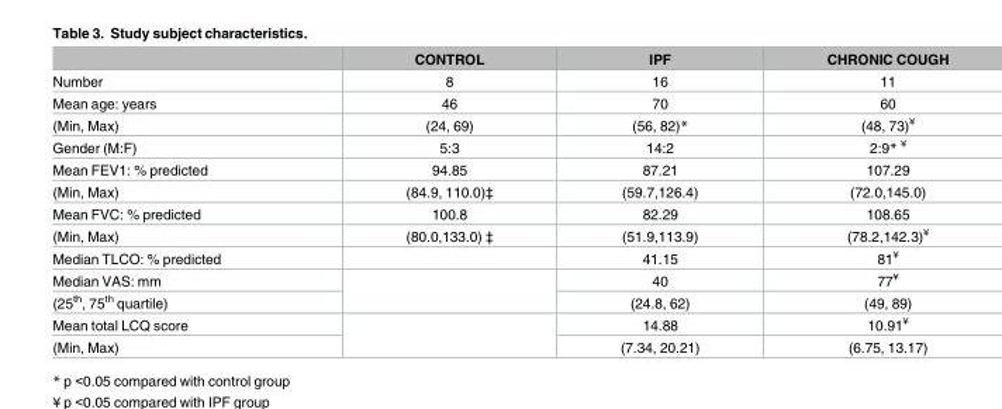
<table><thead><tr><td></td><td>CONTROL</td><td>IPF</td><td>CHRONIC COUGH</td></tr></thead><tbody><tr><td>Number</td><td>8</td><td>16</td><td>11</td></tr><tr><td>Mean age: years</td><td>46</td><td>70</td><td>60</td></tr><tr><td>(Min, Max)</td><td>(24, 69)</td><td>(56, 82)*</td><td>(48, 73)<sup>¥</sup></td></tr><tr><td>Gender (M:F)</td><td>5:3</td><td>14:2</td><td>2:9* <sup>¥</sup></td></tr><tr><td>Mean FEV1: % predicted</td><td>94.85</td><td>87.21</td><td>107.29</td></tr><tr><td>(Min, Max)</td><td>(84.9, 110.0)‡</td><td>(59.7,126.4)</td><td>(72.0,145.0)</td></tr><tr><td>Mean FVC: % predicted</td><td>100.8</td><td>82.29</td><td>108.65</td></tr><tr><td>(Min, Max)</td><td>(80.0,133.0) ‡</td><td>(51.9,113.9)</td><td>(78.2,142.3)<sup>¥</sup></td></tr><tr><td>Median TLCO: % predicted</td><td></td><td>41.15</td><td>81<sup>¥</sup></td></tr><tr><td>Median VAS: mm</td><td rowspan="2"></td><td>40</td><td>77<sup>¥</sup></td></tr><tr><td>(25<sup>th</sup>, 75<sup>th</sup> quartile)</td><td>(24.8, 62)</td><td>(49, 89)</td></tr><tr><td>Mean total LCQ score</td><td rowspan="2"></td><td>14.88</td><td>10.91<sup>¥</sup></td></tr><tr><td>(Min, Max)</td><td>(7.34, 20.21)</td><td>(6.75, 13.17)</td></tr></tbody></table>